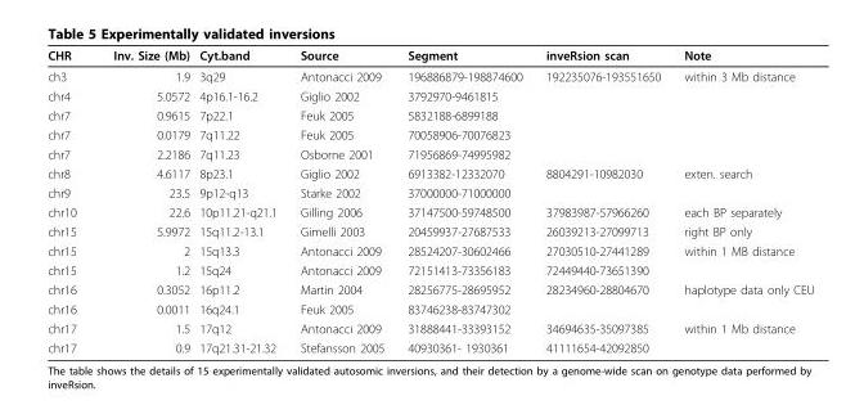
<table><thead><tr><td>CHR</td><td>Inv. Size (Mb)</td><td>Cyt.band</td><td>Source</td><td>Segment</td><td>inveRsion scan</td><td>Note</td></tr></thead><tbody><tr><td>ch3</td><td>1.9</td><td>3q29</td><td>Antonacci 2009</td><td>196886879-198874600</td><td>192235076-193551650</td><td>within 3 Mb distance</td></tr><tr><td>chr4</td><td>5.0572</td><td>4p16.1-16.2</td><td>Giglio 2002</td><td>3792970-9461815</td><td></td><td></td></tr><tr><td>chr7</td><td>0.9615</td><td>7p22.1</td><td>Feuk 2005</td><td>5832188-6899188</td><td></td><td></td></tr><tr><td>chr7</td><td>0.0179</td><td>7q11.22</td><td>Feuk 2005</td><td>70058906-70076823</td><td></td><td></td></tr><tr><td>chr7</td><td>2.2186</td><td>7q11.23</td><td>Osborne 2001</td><td>71956869-74995982</td><td></td><td></td></tr><tr><td>chr8</td><td>4.6117</td><td>8p23.1</td><td>Giglio 2002</td><td>6913382-12332070</td><td>8804291-10982030</td><td>exten. search</td></tr><tr><td>chr9</td><td>23.5</td><td>9p12-q13</td><td>Starke 2002</td><td>37000000-71000000</td><td></td><td></td></tr><tr><td>chr10</td><td>22.6</td><td>10p11.21-q21.1</td><td>Gilling 2006</td><td>37147500-59748500</td><td>37983987-57966260</td><td>each BP separately</td></tr><tr><td>chr15</td><td>5.9972</td><td>15q11.2-13.1</td><td>Gimelli 2003</td><td>20459937-27687533</td><td>26039213-27099713</td><td>right BP only</td></tr><tr><td>chr15</td><td>2</td><td>15q13.3</td><td>Antonacci 2009</td><td>28524207-30602466</td><td>27030510-27441289</td><td>within 1 MB distance</td></tr><tr><td>chr15</td><td>1.2</td><td>15q24</td><td>Antonacci 2009</td><td>72151413-73356183</td><td>72449440-73651390</td><td></td></tr><tr><td>chr16</td><td>0.3052</td><td>16p11.2</td><td>Martin 2004</td><td>28256775-28695952</td><td>28234960-28804670</td><td>haplotype data only CEU</td></tr><tr><td>chr16</td><td>0.0011</td><td>16q24.1</td><td>Feuk 2005</td><td>83746238-83747302</td><td></td><td></td></tr><tr><td>chr17</td><td>1.5</td><td>17q12</td><td>Antonacci 2009</td><td>31888441-33393152</td><td>34694635-35097385</td><td>within 1 Mb distance</td></tr><tr><td>chr17</td><td>0.9</td><td>17q21.31-21.32</td><td>Stefansson 2005</td><td>40930361- 1930361</td><td>41111654-42092850</td><td></td></tr></tbody></table>